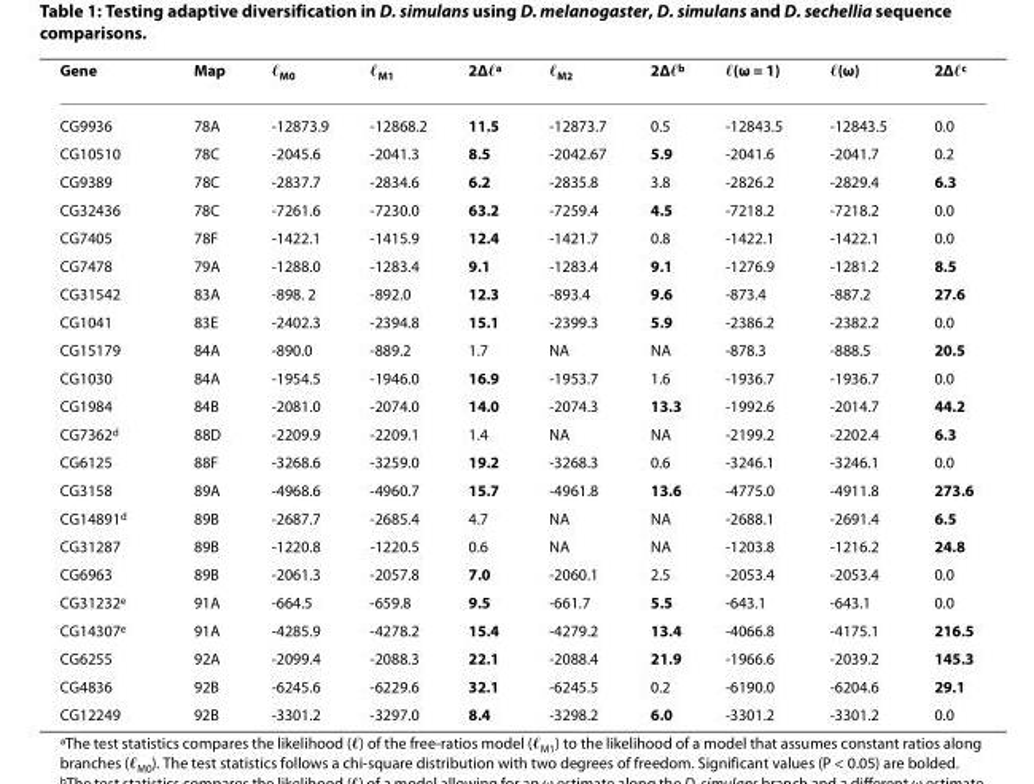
<table><thead><tr><td>Gene</td><td>Map</td><td>ℓ<sub>M0</sub></td><td>ℓ<sub>M1</sub></td><td>2Δℓ<sup>a</sup></td><td>ℓ<sub>M2</sub></td><td>2Δℓ<sup>b</sup></td><td>ℓ(ω = 1)</td><td>ℓ(ω)</td><td>2Δℓ<sup>c</sup></td></tr></thead><tbody><tr><td>CG9936</td><td>78A</td><td>-12873.9</td><td>-12868.2</td><td>11.5</td><td>-12873.7</td><td>0.5</td><td>-12843.5</td><td>-12843.5</td><td>0.0</td></tr><tr><td>CG10510</td><td>78C</td><td>-2045.6</td><td>-2041.3</td><td>8.5</td><td>-2042.67</td><td>5.9</td><td>-2041.6</td><td>-2041.7</td><td>0.2</td></tr><tr><td>CG9389</td><td>78C</td><td>-2837.7</td><td>-2834.6</td><td>6.2</td><td>-2835.8</td><td>3.8</td><td>-2826.2</td><td>-2829.4</td><td>6.3</td></tr><tr><td>CG32436</td><td>78C</td><td>-7261.6</td><td>-7230.0</td><td>63.2</td><td>-7259.4</td><td>4.5</td><td>-7218.2</td><td>-7218.2</td><td>0.0</td></tr><tr><td>CG7405</td><td>78F</td><td>-1422.1</td><td>-1415.9</td><td>12.4</td><td>-1421.7</td><td>0.8</td><td>-1422.1</td><td>-1422.1</td><td>0.0</td></tr><tr><td>CG7478</td><td>79A</td><td>-1288.0</td><td>-1283.4</td><td>9.1</td><td>-1283.4</td><td>9.1</td><td>-1276.9</td><td>-1281.2</td><td>8.5</td></tr><tr><td>CG31542</td><td>83A</td><td>-898. 2</td><td>-892.0</td><td>12.3</td><td>-893.4</td><td>9.6</td><td>-873.4</td><td>-887.2</td><td>27.6</td></tr><tr><td>CG1041</td><td>83E</td><td>-2402.3</td><td>-2394.8</td><td>15.1</td><td>-2399.3</td><td>5.9</td><td>-2386.2</td><td>-2382.2</td><td>0.0</td></tr><tr><td>CG15179</td><td>84A</td><td>-890.0</td><td>-889.2</td><td>1.7</td><td>NA</td><td>NA</td><td>-878.3</td><td>-888.5</td><td>20.5</td></tr><tr><td>CG1030</td><td>84A</td><td>-1954.5</td><td>-1946.0</td><td>16.9</td><td>-1953.7</td><td>1.6</td><td>-1936.7</td><td>-1936.7</td><td>0.0</td></tr><tr><td>CG1984</td><td>84B</td><td>-2081.0</td><td>-2074.0</td><td>14.0</td><td>-2074.3</td><td>13.3</td><td>-1992.6</td><td>-2014.7</td><td>44.2</td></tr><tr><td>CG7362<sup>d</sup></td><td>88D</td><td>-2209.9</td><td>-2209.1</td><td>1.4</td><td>NA</td><td>NA</td><td>-2199.2</td><td>-2202.4</td><td>6.3</td></tr><tr><td>CG6125</td><td>88F</td><td>-3268.6</td><td>-3259.0</td><td>19.2</td><td>-3268.3</td><td>0.6</td><td>-3246.1</td><td>-3246.1</td><td>0.0</td></tr><tr><td>CG3158</td><td>89A</td><td>-4968.6</td><td>-4960.7</td><td>15.7</td><td>-4961.8</td><td>13.6</td><td>-4775.0</td><td>-4911.8</td><td>273.6</td></tr><tr><td>CG14891<sup>d</sup></td><td>89B</td><td>-2687.7</td><td>-2685.4</td><td>4.7</td><td>NA</td><td>NA</td><td>-2688.1</td><td>-2691.4</td><td>6.5</td></tr><tr><td>CG31287</td><td>89B</td><td>-1220.8</td><td>-1220.5</td><td>0.6</td><td>NA</td><td>NA</td><td>-1203.8</td><td>-1216.2</td><td>24.8</td></tr><tr><td>CG6963</td><td>89B</td><td>-2061.3</td><td>-2057.8</td><td>7.0</td><td>-2060.1</td><td>2.5</td><td>-2053.4</td><td>-2053.4</td><td>0.0</td></tr><tr><td>CG31232<sup>e</sup></td><td>91A</td><td>-664.5</td><td>-659.8</td><td>9.5</td><td>-661.7</td><td>5.5</td><td>-643.1</td><td>-643.1</td><td>0.0</td></tr><tr><td>CG14307<sup>e</sup></td><td>91A</td><td>-4285.9</td><td>-4278.2</td><td>15.4</td><td>-4279.2</td><td>13.4</td><td>-4066.8</td><td>-4175.1</td><td>216.5</td></tr><tr><td>CG6255</td><td>92A</td><td>-2099.4</td><td>-2088.3</td><td>22.1</td><td>-2088.4</td><td>21.9</td><td>-1966.6</td><td>-2039.2</td><td>145.3</td></tr><tr><td>CG4836</td><td>92B</td><td>-6245.6</td><td>-6229.6</td><td>32.1</td><td>-6245.5</td><td>0.2</td><td>-6190.0</td><td>-6204.6</td><td>29.1</td></tr><tr><td>CG12249</td><td>92B</td><td>-3301.2</td><td>-3297.0</td><td>8.4</td><td>-3298.2</td><td>6.0</td><td>-3301.2</td><td>-3301.2</td><td>0.0</td></tr></tbody></table>